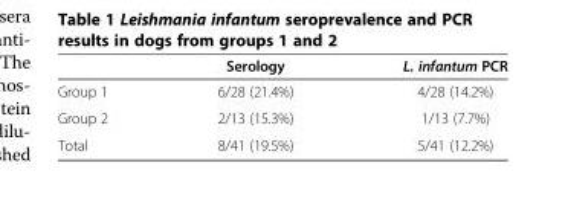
<table><thead><tr><td></td><td>Serology</td><td>L. infantum PCR</td></tr></thead><tbody><tr><td>Group 1</td><td>6/28 (21.4%)</td><td>4/28 (14.2%)</td></tr><tr><td>Group 2</td><td>2/13 (15.3%)</td><td>1/13 (7.7%)</td></tr><tr><td>Total</td><td>8/41 (19.5%)</td><td>5/41 (12.2%)</td></tr></tbody></table>